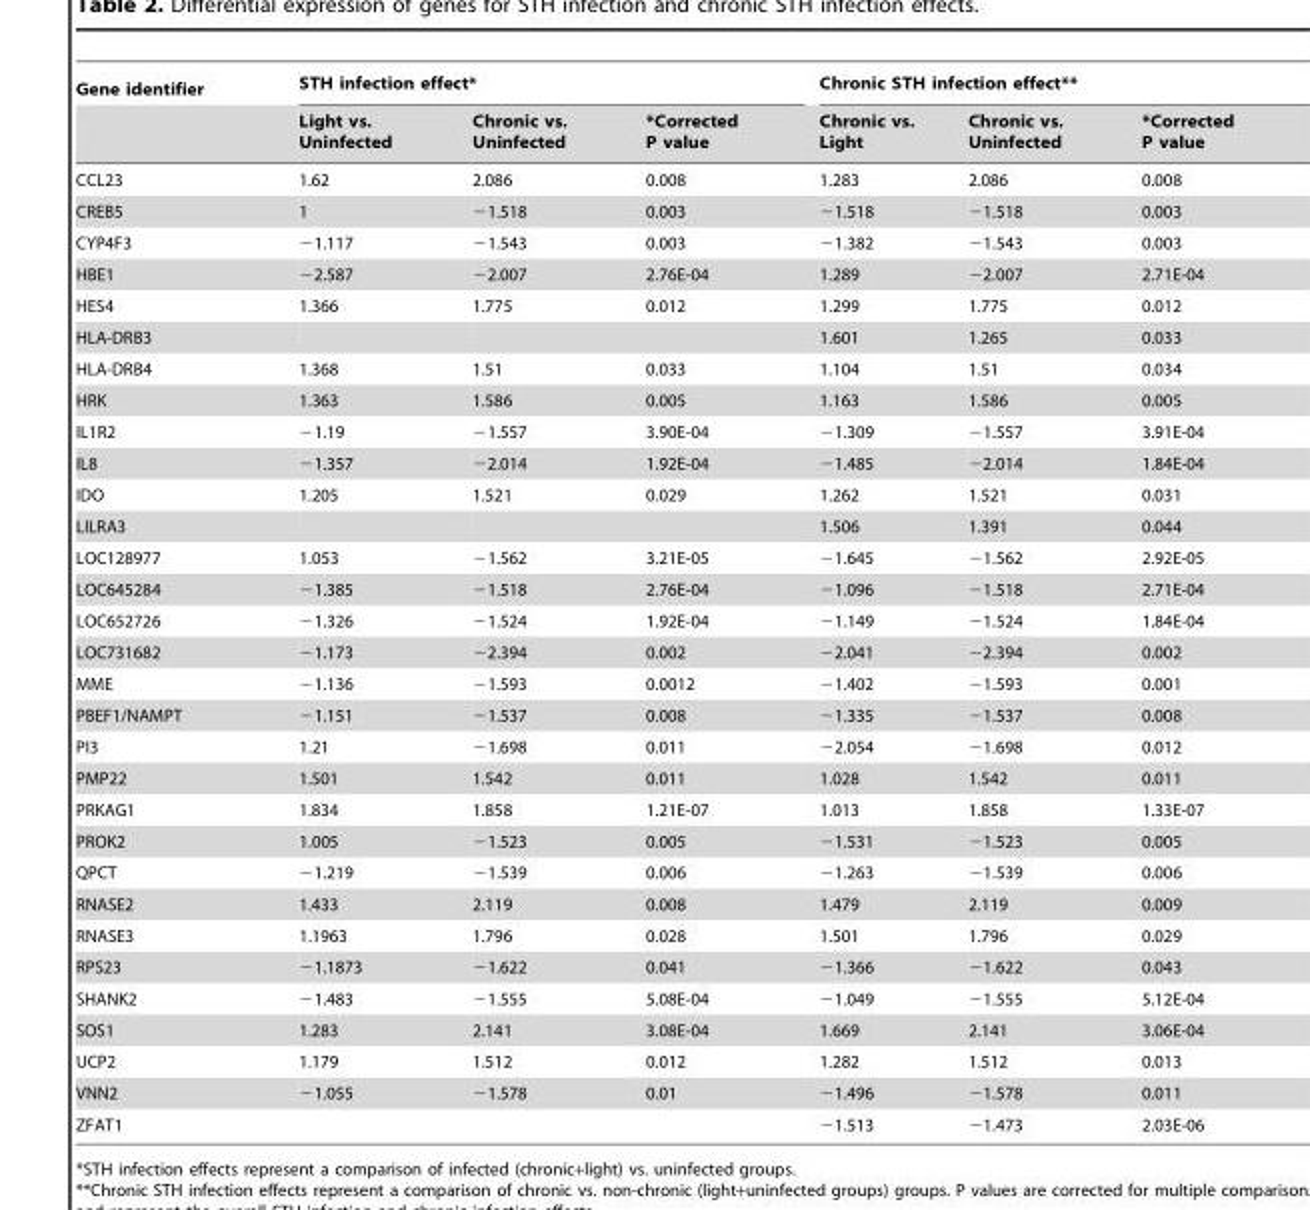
<table><thead><tr><td rowspan="2">Gene identifier</td><td colspan="3">STH infection effect*</td><td colspan="3">Chronic STH infection effect**</td></tr><tr><td>Light vs. Uninfected</td><td>Chronic vs. Uninfected</td><td>*Corrected P value</td><td>Chronic vs. Light</td><td>Chronic vs. Uninfected</td><td>*Corrected P value</td></tr></thead><tbody><tr><td>CCL23</td><td>1.62</td><td>2.086</td><td>0.008</td><td>1.283</td><td>2.086</td><td>0.008</td></tr><tr><td>CREB5</td><td>1</td><td>−1.518</td><td>0.003</td><td>−1.518</td><td>−1.518</td><td>0.003</td></tr><tr><td>CYP4F3</td><td>−1.117</td><td>−1.543</td><td>0.003</td><td>−1.382</td><td>−1.543</td><td>0.003</td></tr><tr><td>HBE1</td><td>−2.587</td><td>−2.007</td><td>2.76E-04</td><td>1.289</td><td>−2.007</td><td>2.71E-04</td></tr><tr><td>HES4</td><td>1.366</td><td>1.775</td><td>0.012</td><td>1.299</td><td>1.775</td><td>0.012</td></tr><tr><td>HLA-DRB3</td><td></td><td></td><td></td><td>1.601</td><td>1.265</td><td>0.033</td></tr><tr><td>HLA-DRB4</td><td>1.368</td><td>1.51</td><td>0.033</td><td>1.104</td><td>1.51</td><td>0.034</td></tr><tr><td>HRK</td><td>1.363</td><td>1.586</td><td>0.005</td><td>1.163</td><td>1.586</td><td>0.005</td></tr><tr><td>IL1R2</td><td>−1.19</td><td>−1.557</td><td>3.90E-04</td><td>−1.309</td><td>−1.557</td><td>3.91E-04</td></tr><tr><td>IL8</td><td>−1.357</td><td>−2.014</td><td>1.92E-04</td><td>−1.485</td><td>−2.014</td><td>1.84E-04</td></tr><tr><td>IDO</td><td>1.205</td><td>1.521</td><td>0.029</td><td>1.262</td><td>1.521</td><td>0.031</td></tr><tr><td>LILRA3</td><td></td><td></td><td></td><td>1.506</td><td>1.391</td><td>0.044</td></tr><tr><td>LOC128977</td><td>1.053</td><td>−1.562</td><td>3.21E-05</td><td>−1.645</td><td>−1.562</td><td>2.92E-05</td></tr><tr><td>LOC645284</td><td>−1.385</td><td>−1.518</td><td>2.76E-04</td><td>−1.096</td><td>−1.518</td><td>2.71E-04</td></tr><tr><td>LOC652726</td><td>−1.326</td><td>−1.524</td><td>1.92E-04</td><td>−1.149</td><td>−1.524</td><td>1.84E-04</td></tr><tr><td>LOC731682</td><td>−1.173</td><td>−2.394</td><td>0.002</td><td>−2.041</td><td>−2.394</td><td>0.002</td></tr><tr><td>MME</td><td>−1.136</td><td>−1.593</td><td>0.0012</td><td>−1.402</td><td>−1.593</td><td>0.001</td></tr><tr><td>PBEF1/NAMPT</td><td>−1.151</td><td>−1.537</td><td>0.008</td><td>−1.335</td><td>−1.537</td><td>0.008</td></tr><tr><td>PI3</td><td>1.21</td><td>−1.698</td><td>0.011</td><td>−2.054</td><td>−1.698</td><td>0.012</td></tr><tr><td>PMP22</td><td>1.501</td><td>1.542</td><td>0.011</td><td>1.028</td><td>1.542</td><td>0.011</td></tr><tr><td>PRKAG1</td><td>1.834</td><td>1.858</td><td>1.21E-07</td><td>1.013</td><td>1.858</td><td>1.33E-07</td></tr><tr><td>PROK2</td><td>1.005</td><td>−1.523</td><td>0.005</td><td>−1.531</td><td>−1.523</td><td>0.005</td></tr><tr><td>QPCT</td><td>−1.219</td><td>−1.539</td><td>0.006</td><td>−1.263</td><td>−1.539</td><td>0.006</td></tr><tr><td>RNASE2</td><td>1.433</td><td>2.119</td><td>0.008</td><td>1.479</td><td>2.119</td><td>0.009</td></tr><tr><td>RNASE3</td><td>1.1963</td><td>1.796</td><td>0.028</td><td>1.501</td><td>1.796</td><td>0.029</td></tr><tr><td>RPS23</td><td>−1.1873</td><td>−1.622</td><td>0.041</td><td>−1.366</td><td>−1.622</td><td>0.043</td></tr><tr><td>SHANK2</td><td>−1.483</td><td>−1.555</td><td>5.08E-04</td><td>−1.049</td><td>−1.555</td><td>5.12E-04</td></tr><tr><td>SOS1</td><td>1.283</td><td>2.141</td><td>3.08E-04</td><td>1.669</td><td>2.141</td><td>3.06E-04</td></tr><tr><td>UCP2</td><td>1.179</td><td>1.512</td><td>0.012</td><td>1.282</td><td>1.512</td><td>0.013</td></tr><tr><td>VNN2</td><td>−1.055</td><td>−1.578</td><td>0.01</td><td>−1.496</td><td>−1.578</td><td>0.011</td></tr><tr><td>ZFAT1</td><td></td><td></td><td></td><td>−1.513</td><td>−1.473</td><td>2.03E-06</td></tr></tbody></table>